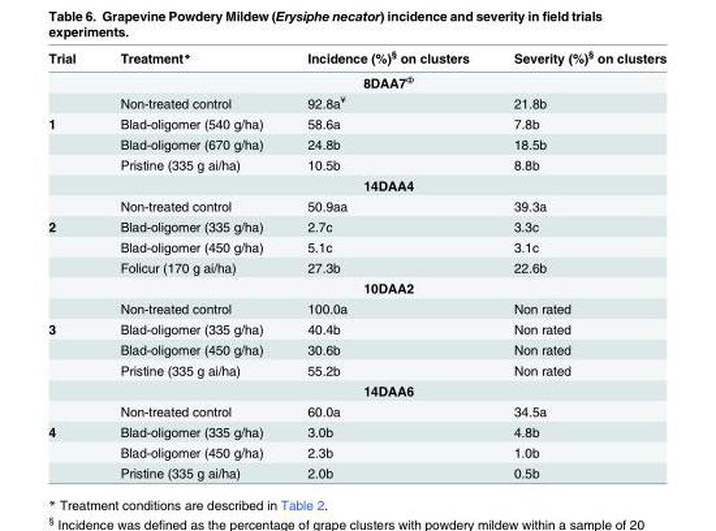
<table><thead><tr><td>Trial</td><td>Treatment*</td><td>Incidence (%)<sup>§</sup> on clusters</td><td>Severity (%)<sup>§</sup> on clusters</td></tr></thead><tbody><tr><td></td><td></td><td>8DAA7<sup>ф</sup></td><td></td></tr><tr><td></td><td>Non-treated control</td><td>92.8a<sup>¥</sup></td><td>21.8b</td></tr><tr><td rowspan="5">1</td><td>Blad-oligomer (540 g/ha)</td><td>58.6a</td><td>7.8b</td></tr><tr><td>Blad-oligomer (670 g/ha)</td><td>24.8b</td><td>18.5b</td></tr><tr><td>Pristine (335 g ai/ha)</td><td>10.5b</td><td>8.8b</td></tr><tr><td></td><td>14DAA4</td><td></td></tr><tr><td>Non-treated control</td><td>50.9aa</td><td>39.3a</td></tr><tr><td rowspan="5">2</td><td>Blad-oligomer (335 g/ha)</td><td>2.7c</td><td>3.3c</td></tr><tr><td>Blad-oligomer (450 g/ha)</td><td>5.1c</td><td>3.1c</td></tr><tr><td>Folicur (170 g ai/ha)</td><td>27.3b</td><td>22.6b</td></tr><tr><td></td><td>10DAA2</td><td></td></tr><tr><td>Non-treated control</td><td>100.0a</td><td>Non rated</td></tr><tr><td rowspan="5">3</td><td>Blad-oligomer (335 g/ha)</td><td>40.4b</td><td>Non rated</td></tr><tr><td>Blad-oligomer (450 g/ha)</td><td>30.6b</td><td>Non rated</td></tr><tr><td>Pristine (335 g ai/ha)</td><td>55.2b</td><td>Non rated</td></tr><tr><td></td><td>14DAA6</td><td></td></tr><tr><td>Non-treated control</td><td>60.0a</td><td>34.5a</td></tr><tr><td rowspan="3">4</td><td>Blad-oligomer (335 g/ha)</td><td>3.0b</td><td>4.8b</td></tr><tr><td>Blad-oligomer (450 g/ha)</td><td>2.3b</td><td>1.0b</td></tr><tr><td>Pristine (335 g ai/ha)</td><td>2.0b</td><td>0.5b</td></tr></tbody></table>